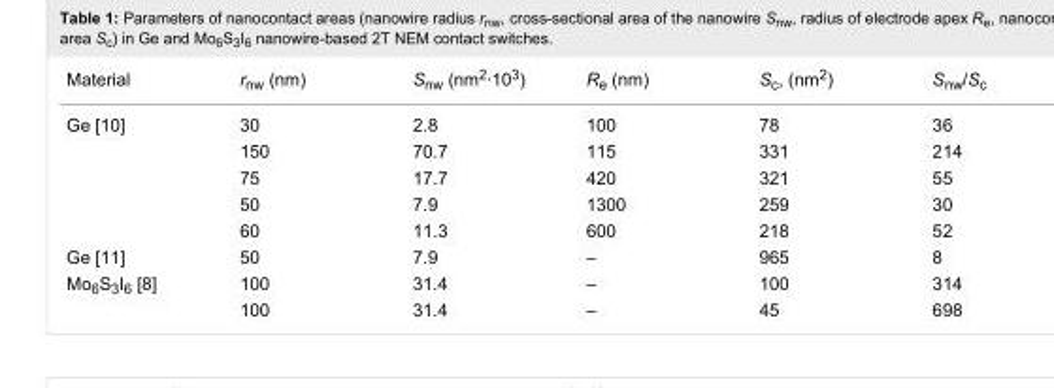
<table><tbody><tr><td>Material</td><td>r<sub>nw</sub> (nm)</td><td>S<sub>nw</sub> (nm<sup>2</sup>∙10<sup>3</sup>)</td><td>R<sub>e</sub> (nm)</td><td>S<sub>c</sub>, (nm<sup>2</sup>)</td><td>S<sub>nw</sub>/S<sub>c</sub></td></tr><tr><td rowspan="5">Ge [10]</td><td>30</td><td>2.8</td><td>100</td><td>78</td><td>36</td></tr><tr><td>150</td><td>70.7</td><td>115</td><td>331</td><td>214</td></tr><tr><td>75</td><td>17.7</td><td>420</td><td>321</td><td>55</td></tr><tr><td>50</td><td>7.9</td><td>1300</td><td>259</td><td>30</td></tr><tr><td>60</td><td>11.3</td><td>600</td><td>218</td><td>52</td></tr><tr><td>Ge [11]</td><td>50</td><td>7.9</td><td>–</td><td>965</td><td>8</td></tr><tr><td rowspan="2">Mo<sub>6</sub>S<sub>3</sub>I<sub>6</sub> [8]</td><td>100</td><td>31.4</td><td>–</td><td>100</td><td>314</td></tr><tr><td>100</td><td>31.4</td><td>–</td><td>45</td><td>698</td></tr></tbody></table>